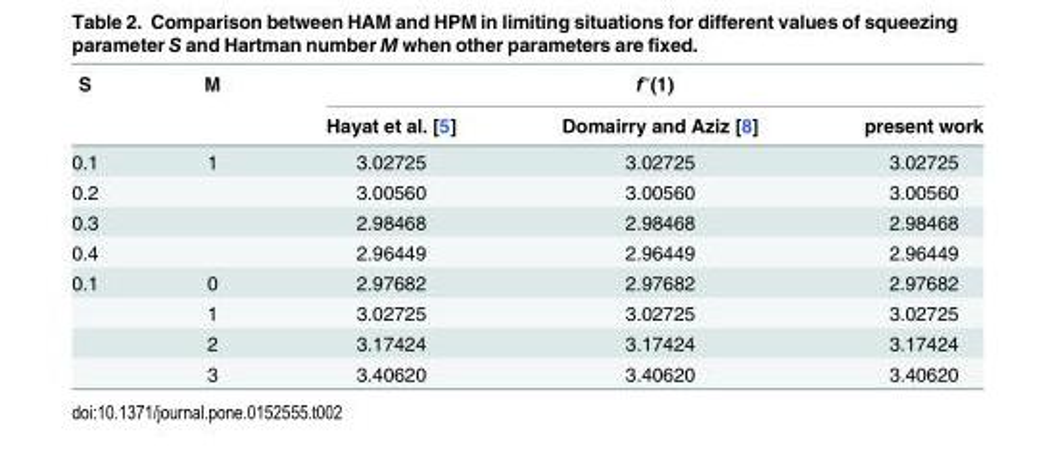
<table><thead><tr><td rowspan="2">S</td><td rowspan="2">M</td><td colspan="3">f″(1)</td></tr><tr><td>Hayat et al. [5]</td><td>Domairry and Aziz [8]</td><td>present work</td></tr></thead><tbody><tr><td>0.1</td><td>1</td><td>3.02725</td><td>3.02725</td><td>3.02725</td></tr><tr><td>0.2</td><td></td><td>3.00560</td><td>3.00560</td><td>3.00560</td></tr><tr><td>0.3</td><td></td><td>2.98468</td><td>2.98468</td><td>2.98468</td></tr><tr><td>0.4</td><td></td><td>2.96449</td><td>2.96449</td><td>2.96449</td></tr><tr><td rowspan="4">0.1</td><td>0</td><td>2.97682</td><td>2.97682</td><td>2.97682</td></tr><tr><td>1</td><td>3.02725</td><td>3.02725</td><td>3.02725</td></tr><tr><td>2</td><td>3.17424</td><td>3.17424</td><td>3.17424</td></tr><tr><td>3</td><td>3.40620</td><td>3.40620</td><td>3.40620</td></tr></tbody></table>